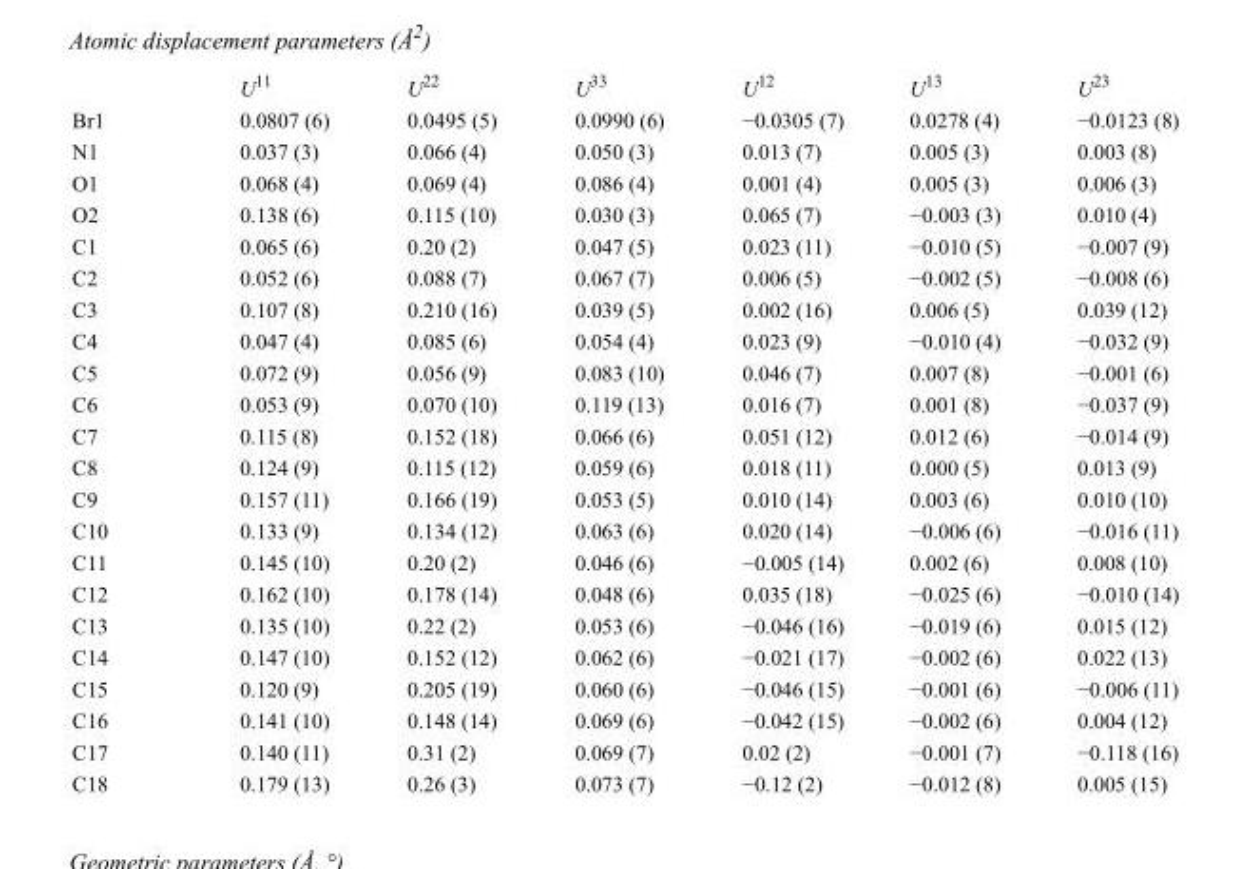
<table><thead><tr><td></td><td>U<sup>11</sup></td><td>U<sup>22</sup></td><td>U<sup>33</sup></td><td>U<sup>12</sup></td><td>U<sup>13</sup></td><td>U<sup>23</sup></td></tr></thead><tbody><tr><td>Br1</td><td>0.0807 (6)</td><td>0.0495 (5)</td><td>0.0990 (6)</td><td>−0.0305 (7)</td><td>0.0278 (4)</td><td>−0.0123 (8)</td></tr><tr><td>N1</td><td>0.037 (3)</td><td>0.066 (4)</td><td>0.050 (3)</td><td>0.013 (7)</td><td>0.005 (3)</td><td>0.003 (8)</td></tr><tr><td>O1</td><td>0.068 (4)</td><td>0.069 (4)</td><td>0.086 (4)</td><td>0.001 (4)</td><td>0.005 (3)</td><td>0.006 (3)</td></tr><tr><td>O2</td><td>0.138 (6)</td><td>0.115 (10)</td><td>0.030 (3)</td><td>0.065 (7)</td><td>−0.003 (3)</td><td>0.010 (4)</td></tr><tr><td>C1</td><td>0.065 (6)</td><td>0.20 (2)</td><td>0.047 (5)</td><td>0.023 (11)</td><td>−0.010 (5)</td><td>−0.007 (9)</td></tr><tr><td>C2</td><td>0.052 (6)</td><td>0.088 (7)</td><td>0.067 (7)</td><td>0.006 (5)</td><td>−0.002 (5)</td><td>−0.008 (6)</td></tr><tr><td>C3</td><td>0.107 (8)</td><td>0.210 (16)</td><td>0.039 (5)</td><td>0.002 (16)</td><td>0.006 (5)</td><td>0.039 (12)</td></tr><tr><td>C4</td><td>0.047 (4)</td><td>0.085 (6)</td><td>0.054 (4)</td><td>0.023 (9)</td><td>−0.010 (4)</td><td>−0.032 (9)</td></tr><tr><td>C5</td><td>0.072 (9)</td><td>0.056 (9)</td><td>0.083 (10)</td><td>0.046 (7)</td><td>0.007 (8)</td><td>−0.001 (6)</td></tr><tr><td>C6</td><td>0.053 (9)</td><td>0.070 (10)</td><td>0.119 (13)</td><td>0.016 (7)</td><td>0.001 (8)</td><td>−0.037 (9)</td></tr><tr><td>C7</td><td>0.115 (8)</td><td>0.152 (18)</td><td>0.066 (6)</td><td>0.051 (12)</td><td>0.012 (6)</td><td>−0.014 (9)</td></tr><tr><td>C8</td><td>0.124 (9)</td><td>0.115 (12)</td><td>0.059 (6)</td><td>0.018 (11)</td><td>0.000 (5)</td><td>0.013 (9)</td></tr><tr><td>C9</td><td>0.157 (11)</td><td>0.166 (19)</td><td>0.053 (5)</td><td>0.010 (14)</td><td>0.003 (6)</td><td>0.010 (10)</td></tr><tr><td>C10</td><td>0.133 (9)</td><td>0.134 (12)</td><td>0.063 (6)</td><td>0.020 (14)</td><td>−0.006 (6)</td><td>−0.016 (11)</td></tr><tr><td>C11</td><td>0.145 (10)</td><td>0.20 (2)</td><td>0.046 (6)</td><td>−0.005 (14)</td><td>0.002 (6)</td><td>0.008 (10)</td></tr><tr><td>C12</td><td>0.162 (10)</td><td>0.178 (14)</td><td>0.048 (6)</td><td>0.035 (18)</td><td>−0.025 (6)</td><td>−0.010 (14)</td></tr><tr><td>C13</td><td>0.135 (10)</td><td>0.22 (2)</td><td>0.053 (6)</td><td>−0.046 (16)</td><td>−0.019 (6)</td><td>0.015 (12)</td></tr><tr><td>C14</td><td>0.147 (10)</td><td>0.152 (12)</td><td>0.062 (6)</td><td>−0.021 (17)</td><td>−0.002 (6)</td><td>0.022 (13)</td></tr><tr><td>C15</td><td>0.120 (9)</td><td>0.205 (19)</td><td>0.060 (6)</td><td>−0.046 (15)</td><td>−0.001 (6)</td><td>−0.006 (11)</td></tr><tr><td>C16</td><td>0.141 (10)</td><td>0.148 (14)</td><td>0.069 (6)</td><td>−0.042 (15)</td><td>−0.002 (6)</td><td>0.004 (12)</td></tr><tr><td>C17</td><td>0.140 (11)</td><td>0.31 (2)</td><td>0.069 (7)</td><td>0.02 (2)</td><td>−0.001 (7)</td><td>−0.118 (16)</td></tr><tr><td>C18</td><td>0.179 (13)</td><td>0.26 (3)</td><td>0.073 (7)</td><td>−0.12 (2)</td><td>−0.012 (8)</td><td>0.005 (15)</td></tr></tbody></table>